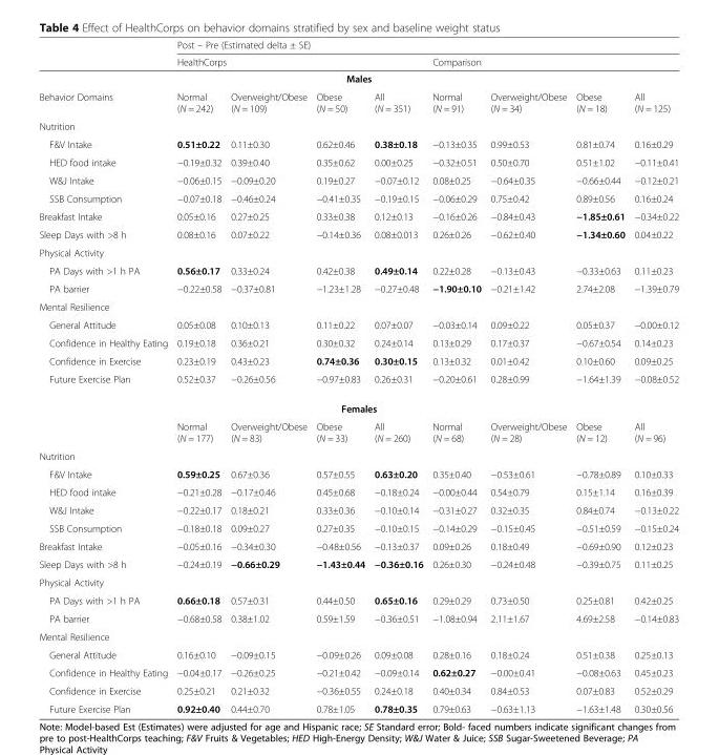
<table><thead><tr><td rowspan="2"></td><td colspan="8">Post – Pre (Estimated delta ± SE)</td></tr><tr><td colspan="4">HealthCorps</td><td colspan="4">Comparison</td></tr><tr><td colspan="9">Males</td></tr><tr><td>Behavior Domains</td><td>Normal (N = 242)</td><td>Overweight/Obese (N = 109)</td><td>Obese (N = 50)</td><td>All (N = 351)</td><td>Normal (N = 91)</td><td>Overweight/Obese (N = 34)</td><td>Obese (N = 18)</td><td>All (N = 125)</td></tr></thead><tbody><tr><td colspan="9">Nutrition</td></tr><tr><td>F&amp;V Intake</td><td>0.51±0.22</td><td>0.11±0.30</td><td>0.62±0.46</td><td>0.38±0.18</td><td>−0.13±0.35</td><td>0.99±0.53</td><td>0.81±0.74</td><td>0.16±0.29</td></tr><tr><td>HED food intake</td><td>−0.19±0.32</td><td>0.39±0.40</td><td>0.35±0.62</td><td>0.00±0.25</td><td>−0.32±0.51</td><td>0.50±0.70</td><td>0.51±1.02</td><td>−0.11±0.41</td></tr><tr><td>W&amp;J Intake</td><td>−0.06±0.15</td><td>−0.09±0.20</td><td>0.19±0.27</td><td>−0.07±0.12</td><td>0.08±0.25</td><td>−0.64±0.35</td><td>−0.66±0.44</td><td>−0.12±0.21</td></tr><tr><td>SSB Consumption</td><td>−0.07±0.18</td><td>−0.46±0.24</td><td>−0.41±0.35</td><td>−0.19±0.15</td><td>−0.06±0.29</td><td>0.75±0.42</td><td>0.89±0.56</td><td>0.16±0.24</td></tr><tr><td>Breakfast Intake</td><td>0.05±0.16</td><td>0.27±0.25</td><td>0.33±0.38</td><td>0.12±0.13</td><td>−0.16±0.26</td><td>−0.84±0.43</td><td>−1.85±0.61</td><td>−0.34±0.22</td></tr><tr><td>Sleep Days with &gt;8 h</td><td>0.08±0.16</td><td>0.07±0.22</td><td>−0.14±0.36</td><td>0.08±0.013</td><td>0.26±0.26</td><td>−0.62±0.40</td><td>−1.34±0.60</td><td>0.04±0.22</td></tr><tr><td colspan="9">Physical Activity</td></tr><tr><td>PA Days with &gt;1 h PA</td><td>0.56±0.17</td><td>0.33±0.24</td><td>0.42±0.38</td><td>0.49±0.14</td><td>0.22±0.28</td><td>−0.13±0.43</td><td>−0.33±0.63</td><td>0.11±0.23</td></tr><tr><td>PA barrier</td><td>−0.22±0.58</td><td>−0.37±0.81</td><td>−1.23±1.28</td><td>−0.27±0.48</td><td>−1.90±0.10</td><td>−0.21±1.42</td><td>2.74±2.08</td><td>−1.39±0.79</td></tr><tr><td colspan="9">Mental Resilience</td></tr><tr><td>General Attitude</td><td>0.05±0.08</td><td>0.10±0.13</td><td>0.11±0.22</td><td>0.07±0.07</td><td>−0.03±0.14</td><td>0.09±0.22</td><td>0.05±0.37</td><td>−0.00±0.12</td></tr><tr><td>Confidence in Healthy Eating</td><td>0.19±0.18</td><td>0.36±0.21</td><td>0.30±0.32</td><td>0.24±0.14</td><td>0.13±0.29</td><td>0.17±0.37</td><td>−0.67±0.54</td><td>0.14±0.23</td></tr><tr><td>Confidence in Exercise</td><td>0.23±0.19</td><td>0.43±0.23</td><td>0.74±0.36</td><td>0.30±0.15</td><td>0.13±0.32</td><td>0.01±0.42</td><td>0.10±0.60</td><td>0.09±0.25</td></tr><tr><td>Future Exercise Plan</td><td>0.52±0.37</td><td>−0.26±0.56</td><td>−0.97±0.83</td><td>0.26±0.31</td><td>−0.20±0.61</td><td>0.28±0.99</td><td>−1.64±1.39</td><td>−0.08±0.52</td></tr><tr><td colspan="9">Females</td></tr><tr><td></td><td>Normal (N = 177)</td><td>Overweight/Obese (N = 83)</td><td>Obese (N = 33)</td><td>All (N = 260)</td><td>Normal (N = 68)</td><td>Overweight/Obese (N = 28)</td><td>Obese (N = 12)</td><td>All (N = 96)</td></tr><tr><td colspan="9">Nutrition</td></tr><tr><td>F&amp;V Intake</td><td>0.59±0.25</td><td>0.67±0.36</td><td>0.57±0.55</td><td>0.63±0.20</td><td>0.35±0.40</td><td>−0.53±0.61</td><td>−0.78±0.89</td><td>0.10±0.33</td></tr><tr><td>HED food intake</td><td>−0.21±0.28</td><td>−0.17±0.46</td><td>0.45±0.68</td><td>−0.18±0.24</td><td>−0.00±0.44</td><td>0.54±0.79</td><td>0.15±1.14</td><td>0.16±0.39</td></tr><tr><td>W&amp;J Intake</td><td>−0.22±0.17</td><td>0.18±0.21</td><td>0.33±0.36</td><td>−0.10±0.14</td><td>−0.31±0.27</td><td>0.32±0.35</td><td>0.84±0.74</td><td>−0.13±0.22</td></tr><tr><td>SSB Consumption</td><td>−0.18±0.18</td><td>0.09±0.27</td><td>0.27±0.35</td><td>−0.10±0.15</td><td>−0.14±0.29</td><td>−0.15±0.45</td><td>−0.51±0.59</td><td>−0.15±0.24</td></tr><tr><td>Breakfast Intake</td><td>−0.05±0.16</td><td>−0.34±0.30</td><td>−0.48±0.56</td><td>−0.13±0.37</td><td>0.09±0.26</td><td>0.18±0.49</td><td>−0.69±0.90</td><td>0.12±0.23</td></tr><tr><td>Sleep Days with &gt;8 h</td><td>−0.24±0.19</td><td>−0.66±0.29</td><td>−1.43±0.44</td><td>−0.36±0.16</td><td>0.26±0.30</td><td>−0.24±0.48</td><td>−0.39±0.75</td><td>0.11±0.25</td></tr><tr><td colspan="9">Physical Activity</td></tr><tr><td>PA Days with &gt;1 h PA</td><td>0.66±0.18</td><td>0.57±0.31</td><td>0.44±0.50</td><td>0.65±0.16</td><td>0.29±0.29</td><td>0.73±0.50</td><td>0.25±0.81</td><td>0.42±0.25</td></tr><tr><td>PA barrier</td><td>−0.68±0.58</td><td>0.38±1.02</td><td>0.59±1.59</td><td>−0.36±0.51</td><td>−1.08±0.94</td><td>2.11±1.67</td><td>4.69±2.58</td><td>−0.14±0.83</td></tr><tr><td colspan="9">Mental Resilience</td></tr><tr><td>General Attitude</td><td>0.16±0.10</td><td>−0.09±0.15</td><td>−0.09±0.26</td><td>0.09±0.08</td><td>0.28±0.16</td><td>0.18±0.24</td><td>0.51±0.38</td><td>0.25±0.13</td></tr><tr><td>Confidence in Healthy Eating</td><td>−0.04±0.17</td><td>−0.26±0.25</td><td>−0.21±0.42</td><td>−0.09±0.14</td><td>0.62±0.27</td><td>−0.00±0.41</td><td>−0.08±0.63</td><td>0.45±0.23</td></tr><tr><td>Confidence in Exercise</td><td>0.25±0.21</td><td>0.21±0.32</td><td>−0.36±0.55</td><td>0.24±0.18</td><td>0.40±0.34</td><td>0.84±0.53</td><td>0.07±0.83</td><td>0.52±0.29</td></tr><tr><td>Future Exercise Plan</td><td>0.92±0.40</td><td>0.44±0.70</td><td>0.78±1.05</td><td>0.78±0.35</td><td>0.79±0.63</td><td>−0.63±1.13</td><td>−1.63±1.48</td><td>0.30±0.56</td></tr></tbody></table>